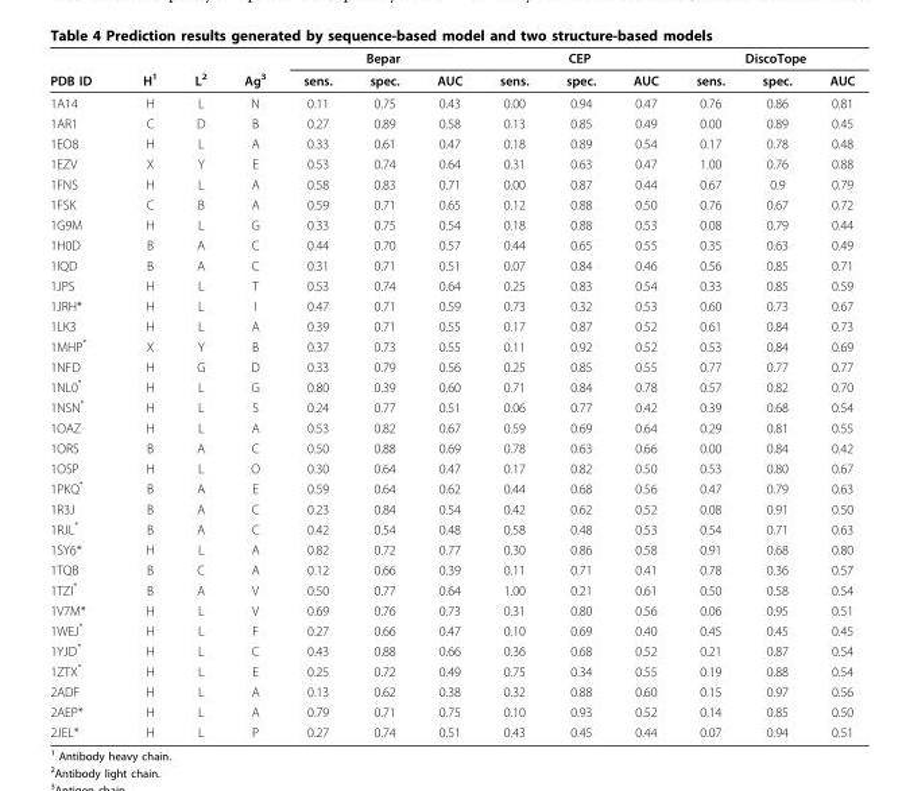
<table><thead><tr><td rowspan="2">PDB ID</td><td rowspan="2">H<sup>1</sup></td><td rowspan="2">L<sup>2</sup></td><td rowspan="2">Ag<sup>3</sup></td><td colspan="3">Bepar</td><td colspan="3">CEP</td><td colspan="3">DiscoTope</td></tr><tr><td>sens.</td><td>spec.</td><td>AUC</td><td>sens.</td><td>spec.</td><td>AUC</td><td>sens.</td><td>spec.</td><td>AUC</td></tr></thead><tbody><tr><td>1A14</td><td>H</td><td>L</td><td>N</td><td>0.11</td><td>0.75</td><td>0.43</td><td>0.00</td><td>0.94</td><td>0.47</td><td>0.76</td><td>0.86</td><td>0.81</td></tr><tr><td>1AR1</td><td>C</td><td>D</td><td>B</td><td>0.27</td><td>0.89</td><td>0.58</td><td>0.13</td><td>0.85</td><td>0.49</td><td>0.00</td><td>0.89</td><td>0.45</td></tr><tr><td>1EO8</td><td>H</td><td>L</td><td>A</td><td>0.33</td><td>0.61</td><td>0.47</td><td>0.18</td><td>0.89</td><td>0.54</td><td>0.17</td><td>0.78</td><td>0.48</td></tr><tr><td>1EZV</td><td>X</td><td>Y</td><td>E</td><td>0.53</td><td>0.74</td><td>0.64</td><td>0.31</td><td>0.63</td><td>0.47</td><td>1.00</td><td>0.76</td><td>0.88</td></tr><tr><td>1FNS</td><td>H</td><td>L</td><td>A</td><td>0.58</td><td>0.83</td><td>0.71</td><td>0.00</td><td>0.87</td><td>0.44</td><td>0.67</td><td>0.9</td><td>0.79</td></tr><tr><td>1FSK</td><td>C</td><td>B</td><td>A</td><td>0.59</td><td>0.71</td><td>0.65</td><td>0.12</td><td>0.88</td><td>0.50</td><td>0.76</td><td>0.67</td><td>0.72</td></tr><tr><td>1G9M</td><td>H</td><td>L</td><td>G</td><td>0.33</td><td>0.75</td><td>0.54</td><td>0.18</td><td>0.88</td><td>0.53</td><td>0.08</td><td>0.79</td><td>0.44</td></tr><tr><td>1H0D</td><td>B</td><td>A</td><td>C</td><td>0.44</td><td>0.70</td><td>0.57</td><td>0.44</td><td>0.65</td><td>0.55</td><td>0.35</td><td>0.63</td><td>0.49</td></tr><tr><td>1IQD</td><td>B</td><td>A</td><td>C</td><td>0.31</td><td>0.71</td><td>0.51</td><td>0.07</td><td>0.84</td><td>0.46</td><td>0.56</td><td>0.85</td><td>0.71</td></tr><tr><td>1JPS</td><td>H</td><td>L</td><td>T</td><td>0.53</td><td>0.74</td><td>0.64</td><td>0.25</td><td>0.83</td><td>0.54</td><td>0.33</td><td>0.85</td><td>0.59</td></tr><tr><td>1JRH*</td><td>H</td><td>L</td><td>I</td><td>0.47</td><td>0.71</td><td>0.59</td><td>0.73</td><td>0.32</td><td>0.53</td><td>0.60</td><td>0.73</td><td>0.67</td></tr><tr><td>1LK3</td><td>H</td><td>L</td><td>A</td><td>0.39</td><td>0.71</td><td>0.55</td><td>0.17</td><td>0.87</td><td>0.52</td><td>0.61</td><td>0.84</td><td>0.73</td></tr><tr><td>1MHP*</td><td>X</td><td>Y</td><td>B</td><td>0.37</td><td>0.73</td><td>0.55</td><td>0.11</td><td>0.92</td><td>0.52</td><td>0.53</td><td>0.84</td><td>0.69</td></tr><tr><td>1NFD</td><td>H</td><td>G</td><td>D</td><td>0.33</td><td>0.79</td><td>0.56</td><td>0.25</td><td>0.85</td><td>0.55</td><td>0.77</td><td>0.77</td><td>0.77</td></tr><tr><td>1NL0*</td><td>H</td><td>L</td><td>G</td><td>0.80</td><td>0.39</td><td>0.60</td><td>0.71</td><td>0.84</td><td>0.78</td><td>0.57</td><td>0.82</td><td>0.70</td></tr><tr><td>1NSN*</td><td>H</td><td>L</td><td>S</td><td>0.24</td><td>0.77</td><td>0.51</td><td>0.06</td><td>0.77</td><td>0.42</td><td>0.39</td><td>0.68</td><td>0.54</td></tr><tr><td>1OAZ</td><td>H</td><td>L</td><td>A</td><td>0.53</td><td>0.82</td><td>0.67</td><td>0.59</td><td>0.69</td><td>0.64</td><td>0.29</td><td>0.81</td><td>0.55</td></tr><tr><td>1ORS</td><td>B</td><td>A</td><td>C</td><td>0.50</td><td>0.88</td><td>0.69</td><td>0.78</td><td>0.63</td><td>0.66</td><td>0.00</td><td>0.84</td><td>0.42</td></tr><tr><td>1OSP</td><td>H</td><td>L</td><td>O</td><td>0.30</td><td>0.64</td><td>0.47</td><td>0.17</td><td>0.82</td><td>0.50</td><td>0.53</td><td>0.80</td><td>0.67</td></tr><tr><td>1PKQ*</td><td>B</td><td>A</td><td>E</td><td>0.59</td><td>0.64</td><td>0.62</td><td>0.44</td><td>0.68</td><td>0.56</td><td>0.47</td><td>0.79</td><td>0.63</td></tr><tr><td>1R3J</td><td>B</td><td>A</td><td>C</td><td>0.23</td><td>0.84</td><td>0.54</td><td>0.42</td><td>0.62</td><td>0.52</td><td>0.08</td><td>0.91</td><td>0.50</td></tr><tr><td>1RJL*</td><td>B</td><td>A</td><td>C</td><td>0.42</td><td>0.54</td><td>0.48</td><td>0.58</td><td>0.48</td><td>0.53</td><td>0.54</td><td>0.71</td><td>0.63</td></tr><tr><td>1SY6*</td><td>H</td><td>L</td><td>A</td><td>0.82</td><td>0.72</td><td>0.77</td><td>0.30</td><td>0.86</td><td>0.58</td><td>0.91</td><td>0.68</td><td>0.80</td></tr><tr><td>1TQB</td><td>B</td><td>C</td><td>A</td><td>0.12</td><td>0.66</td><td>0.39</td><td>0.11</td><td>0.71</td><td>0.41</td><td>0.78</td><td>0.36</td><td>0.57</td></tr><tr><td>1TZI*</td><td>B</td><td>A</td><td>V</td><td>0.50</td><td>0.77</td><td>0.64</td><td>1.00</td><td>0.21</td><td>0.61</td><td>0.50</td><td>0.58</td><td>0.54</td></tr><tr><td>1V7M*</td><td>H</td><td>L</td><td>V</td><td>0.69</td><td>0.76</td><td>0.73</td><td>0.31</td><td>0.80</td><td>0.56</td><td>0.06</td><td>0.95</td><td>0.51</td></tr><tr><td>1WEJ*</td><td>H</td><td>L</td><td>F</td><td>0.27</td><td>0.66</td><td>0.47</td><td>0.10</td><td>0.69</td><td>0.40</td><td>0.45</td><td>0.45</td><td>0.45</td></tr><tr><td>1YJD*</td><td>H</td><td>L</td><td>C</td><td>0.43</td><td>0.88</td><td>0.66</td><td>0.36</td><td>0.68</td><td>0.52</td><td>0.21</td><td>0.87</td><td>0.54</td></tr><tr><td>1ZTX*</td><td>H</td><td>L</td><td>E</td><td>0.25</td><td>0.72</td><td>0.49</td><td>0.75</td><td>0.34</td><td>0.55</td><td>0.19</td><td>0.88</td><td>0.54</td></tr><tr><td>2ADF</td><td>H</td><td>L</td><td>A</td><td>0.13</td><td>0.62</td><td>0.38</td><td>0.32</td><td>0.88</td><td>0.60</td><td>0.15</td><td>0.97</td><td>0.56</td></tr><tr><td>2AEP*</td><td>H</td><td>L</td><td>A</td><td>0.79</td><td>0.71</td><td>0.75</td><td>0.10</td><td>0.93</td><td>0.52</td><td>0.14</td><td>0.85</td><td>0.50</td></tr><tr><td>2JEL*</td><td>H</td><td>L</td><td>P</td><td>0.27</td><td>0.74</td><td>0.51</td><td>0.43</td><td>0.45</td><td>0.44</td><td>0.07</td><td>0.94</td><td>0.51</td></tr></tbody></table>